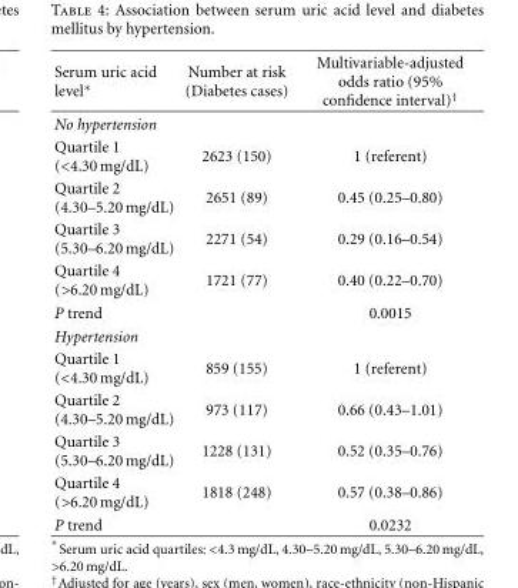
<table><thead><tr><td>Serum uric acid level∗</td><td>Number at risk (Diabetes cases)</td><td>Multivariable-adjusted odds ratio (95% confidence interval)<sup>†</sup></td></tr></thead><tbody><tr><td colspan="3">No hypertension</td></tr><tr><td>Quartile 1 (&lt;4.30 mg/dL)</td><td>2623 (150)</td><td>1 (referent)</td></tr><tr><td>Quartile 2 (4.30–5.20 mg/dL)</td><td>2651 (89)</td><td>0.45 (0.25–0.80)</td></tr><tr><td>Quartile 3 (5.30–6.20 mg/dL)</td><td>2271 (54)</td><td>0.29 (0.16–0.54)</td></tr><tr><td>Quartile 4 (&gt;6.20 mg/dL)</td><td>1721 (77)</td><td>0.40 (0.22–0.70)</td></tr><tr><td>P trend</td><td></td><td>0.0015</td></tr><tr><td colspan="3">Hypertension</td></tr><tr><td>Quartile 1 (&lt;4.30 mg/dL)</td><td>859 (155)</td><td>1 (referent)</td></tr><tr><td>Quartile 2 (4.30–5.20 mg/dL)</td><td>973 (117)</td><td>0.66 (0.43–1.01)</td></tr><tr><td>Quartile 3 (5.30–6.20 mg/dL)</td><td>1228 (131)</td><td>0.52 (0.35–0.76)</td></tr><tr><td>Quartile 4 (&gt;6.20 mg/dL)</td><td>1818 (248)</td><td>0.57 (0.38–0.86)</td></tr><tr><td>P trend</td><td></td><td>0.0232</td></tr></tbody></table>